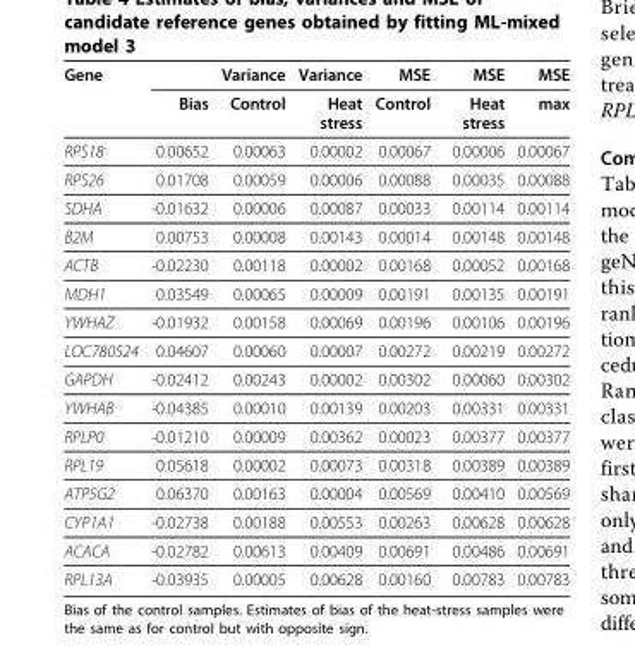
<table><thead><tr><td rowspan="2">Gene</td><td rowspan="2">Bias</td><td rowspan="2">Variance Control</td><td rowspan="2">Variance Heat stress</td><td rowspan="2">MSE Control</td><td rowspan="2">MSE Heat stress</td><td rowspan="2">MSE max</td></tr><tr></tr></thead><tbody><tr><td>RPS18</td><td>0.00652</td><td>0.00063</td><td>0.00002</td><td>0.00067</td><td>0.00006</td><td>0.00067</td></tr><tr><td>RPS26</td><td>0.01708</td><td>0.00059</td><td>0.00006</td><td>0.00088</td><td>0.00035</td><td>0.00088</td></tr><tr><td>SDHA</td><td>-0.01632</td><td>0.00006</td><td>0.00087</td><td>0.00033</td><td>0.00114</td><td>0.00114</td></tr><tr><td>B2M</td><td>0.00753</td><td>0.00008</td><td>0.00143</td><td>0.00014</td><td>0.00148</td><td>0.00148</td></tr><tr><td>ACTB</td><td>-0.02230</td><td>0.00118</td><td>0.00002</td><td>0.00168</td><td>0.00052</td><td>0.00168</td></tr><tr><td>MDH1</td><td>0.03549</td><td>0.00065</td><td>0.00009</td><td>0.00191</td><td>0.00135</td><td>0.00191</td></tr><tr><td>YWHAZ</td><td>-0.01932</td><td>0.00158</td><td>0.00069</td><td>0.00196</td><td>0.00106</td><td>0.00196</td></tr><tr><td>LOC780524</td><td>0.04607</td><td>0.00060</td><td>0.00007</td><td>0.00272</td><td>0.00219</td><td>0.00272</td></tr><tr><td>GAPDH</td><td>-0.02412</td><td>0.00243</td><td>0.00002</td><td>0.00302</td><td>0.00060</td><td>0.00302</td></tr><tr><td>YWHAB</td><td>-0.04385</td><td>0.00010</td><td>0.00139</td><td>0.00203</td><td>0.00331</td><td>0.00331</td></tr><tr><td>RPLP0</td><td>-0.01210</td><td>0.00009</td><td>0.00362</td><td>0.00023</td><td>0.00377</td><td>0.00377</td></tr><tr><td>RPL19</td><td>0.05618</td><td>0.00002</td><td>0.00073</td><td>0.00318</td><td>0.00389</td><td>0.00389</td></tr><tr><td>ATP5G2</td><td>0.06370</td><td>0.00163</td><td>0.00004</td><td>0.00569</td><td>0.00410</td><td>0.00569</td></tr><tr><td>CYP1A1</td><td>-0.02738</td><td>0.00188</td><td>0.00553</td><td>0.00263</td><td>0.00628</td><td>0.00628</td></tr><tr><td>ACACA</td><td>-0.02782</td><td>0.00613</td><td>0.00409</td><td>0.00691</td><td>0.00486</td><td>0.00691</td></tr><tr><td>RPL13A</td><td>-0.03935</td><td>0.00005</td><td>0.00628</td><td>0.00160</td><td>0.00783</td><td>0.00783</td></tr></tbody></table>